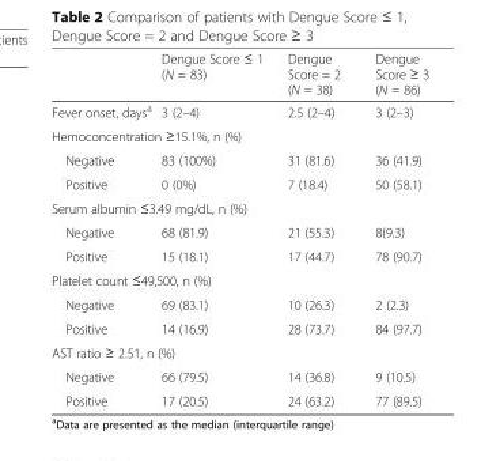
<table><thead><tr><td></td><td>Dengue Score ≤ 1 (N = 83)</td><td>Dengue Score = 2 (N = 38)</td><td>Dengue Score ≥ 3 (N = 86)</td></tr></thead><tbody><tr><td>Fever onset, days<sup>a</sup></td><td>3 (2–4)</td><td>2.5 (2–4)</td><td>3 (2–3)</td></tr><tr><td colspan="4">Hemoconcentration ≥15.1%, n (%)</td></tr><tr><td>Negative</td><td>83 (100%)</td><td>31 (81.6)</td><td>36 (41.9)</td></tr><tr><td>Positive</td><td>0 (0%)</td><td>7 (18.4)</td><td>50 (58.1)</td></tr><tr><td colspan="4">Serum albumin ≤3.49 mg/dL, n (%)</td></tr><tr><td>Negative</td><td>68 (81.9)</td><td>21 (55.3)</td><td>8(9.3)</td></tr><tr><td>Positive</td><td>15 (18.1)</td><td>17 (44.7)</td><td>78 (90.7)</td></tr><tr><td colspan="4">Platelet count ≤49,500, n (%)</td></tr><tr><td>Negative</td><td>69 (83.1)</td><td>10 (26.3)</td><td>2 (2.3)</td></tr><tr><td>Positive</td><td>14 (16.9)</td><td>28 (73.7)</td><td>84 (97.7)</td></tr><tr><td colspan="4">AST ratio ≥ 2.51, n (%)</td></tr><tr><td>Negative</td><td>66 (79.5)</td><td>14 (36.8)</td><td>9 (10.5)</td></tr><tr><td>Positive</td><td>17 (20.5)</td><td>24 (63.2)</td><td>77 (89.5)</td></tr></tbody></table>